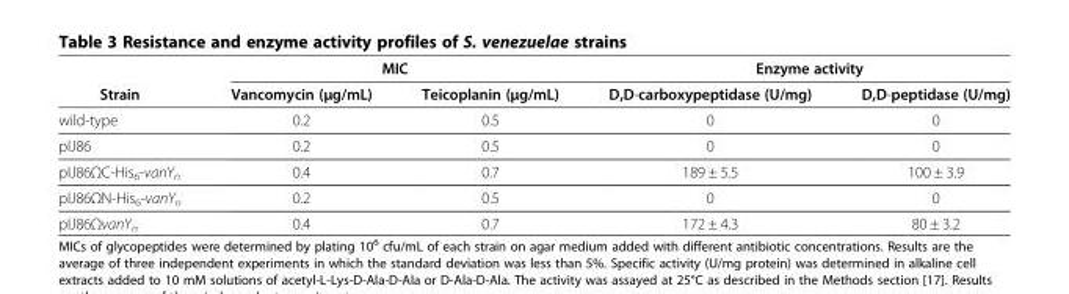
<table><thead><tr><td rowspan="2">Strain</td><td colspan="2">MIC</td><td colspan="2">Enzyme activity</td></tr><tr><td>Vancomycin (μg/mL)</td><td>Teicoplanin (μg/mL)</td><td>D,D-carboxypeptidase (U/mg)</td><td>D,D-peptidase (U/mg)</td></tr></thead><tbody><tr><td>wild-type</td><td>0.2</td><td>0.5</td><td>0</td><td>0</td></tr><tr><td>pIJ86</td><td>0.2</td><td>0.5</td><td>0</td><td>0</td></tr><tr><td>pIJ86ΩC-His<sub>6</sub>-vanY<sub>n</sub></td><td>0.4</td><td>0.7</td><td>189 ± 5.5</td><td>100 ± 3.9</td></tr><tr><td>pIJ86ΩN-His<sub>6</sub>-vanY<sub>n</sub></td><td>0.2</td><td>0.5</td><td>0</td><td>0</td></tr><tr><td>pIJ86ΩvanY<sub>n</sub></td><td>0.4</td><td>0.7</td><td>172 ± 4.3</td><td>80 ± 3.2</td></tr></tbody></table>